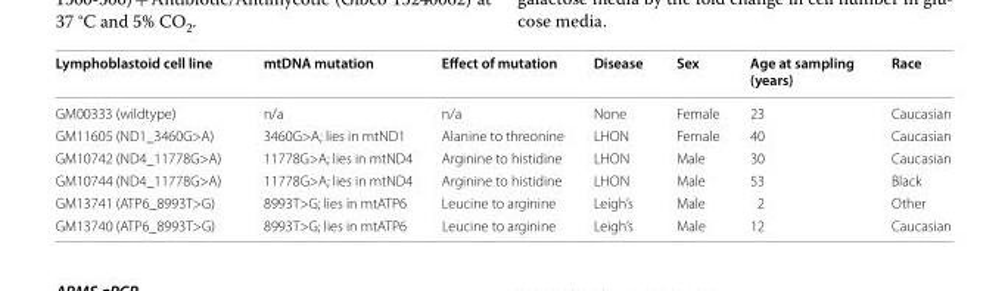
<table><thead><tr><td>Lymphoblastoid cell line</td><td>mtDNA mutation</td><td>Effect of mutation</td><td>Disease</td><td>Sex</td><td>Age at sampling (years)</td><td>Race</td></tr></thead><tbody><tr><td>GM00333 (wildtype)</td><td>n/a</td><td>n/a</td><td>None</td><td>Female</td><td>23</td><td>Caucasian</td></tr><tr><td>GM11605 (ND1_3460G&gt;A)</td><td>3460G&gt;A; lies in mtND1</td><td>Alanine to threonine</td><td>LHON</td><td>Female</td><td>40</td><td>Caucasian</td></tr><tr><td>GM10742 (ND4_11778G&gt;A)</td><td>11778G&gt;A; lies in mtND4</td><td>Arginine to histidine</td><td>LHON</td><td>Male</td><td>30</td><td>Caucasian</td></tr><tr><td>GM10744 (ND4_11778G&gt;A)</td><td>11778G&gt;A; lies in mtND4</td><td>Arginine to histidine</td><td>LHON</td><td>Male</td><td>53</td><td>Black</td></tr><tr><td>GM13741 (ATP6_8993T&gt;G)</td><td>8993T&gt;G; lies in mtATP6</td><td>Leucine to arginine</td><td>Leigh’s</td><td>Male</td><td>2</td><td>Other</td></tr><tr><td>GM13740 (ATP6_8993T&gt;G)</td><td>8993T&gt;G; lies in mtATP6</td><td>Leucine to arginine</td><td>Leigh’s</td><td>Male</td><td>12</td><td>Caucasian</td></tr></tbody></table>